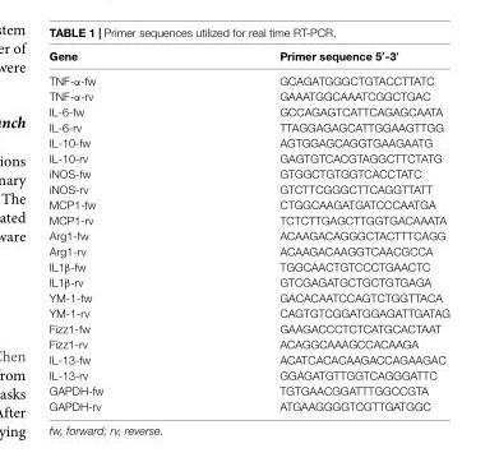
<table><thead><tr><td>Gene</td><td>Primer sequence 5′-3′</td></tr></thead><tbody><tr><td>TNF-α-fw</td><td>GCAGATGGGCTGTACCTTATC</td></tr><tr><td>TNF-α-rv</td><td>GAAATGGCAAATCGGCTGAC</td></tr><tr><td>IL-6-fw</td><td>GCCAGAGTCATTCAGAGCAATA</td></tr><tr><td>IL-6-rv</td><td>TTAGGAGAGCATTGGAAGTTGG</td></tr><tr><td>IL-10-fw</td><td>AGTGGAGCAGGTGAAGAATG</td></tr><tr><td>IL-10-rv</td><td>GAGTGTCACGTAGGCTTCTATG</td></tr><tr><td>iNOS-fw</td><td>GTGGCTGTGGTCACCTATC</td></tr><tr><td>iNOS-rv</td><td>GTCTTCGGGCTTCAGGTTATT</td></tr><tr><td>MCP1-fw</td><td>CTGGCAAGATGATCCCAATGA</td></tr><tr><td>MCP1-rv</td><td>TCTCTTGAGCTTGGTGACAAATA</td></tr><tr><td>Arg1-fw</td><td>ACAAGACAGGGCTACTTTCAGG</td></tr><tr><td>Arg1-rv</td><td>ACAAGACAAGGTCAACGCCA</td></tr><tr><td>IL1β-fw</td><td>TGGCAACTGTCCCTGAACTC</td></tr><tr><td>IL1β-rv</td><td>GTCGAGATGCTGCTGTGAGA</td></tr><tr><td>YM-1-fw</td><td>GACACAATCCAGTCTGGTTACA</td></tr><tr><td>YM-1-rv</td><td>CAGTGTCGGATGGAGATTGATAG</td></tr><tr><td>Fizz1-fw</td><td>GAAGACCCTCTCATGCACTAAT</td></tr><tr><td>Fizz1-rv</td><td>ACAGGCAAAGCCACAAGA</td></tr><tr><td>IL-13-fw</td><td>ACATCACACAAGACCAGAAGAC</td></tr><tr><td>IL-13-rv</td><td>GGAGATGTTGGTCAGGGATTC</td></tr><tr><td>GAPDH-fw</td><td>TGTGAACGGATTTGGCCGTA</td></tr><tr><td>GAPDH-rv</td><td>ATGAAGGGGTCGTTGATGGC</td></tr></tbody></table>